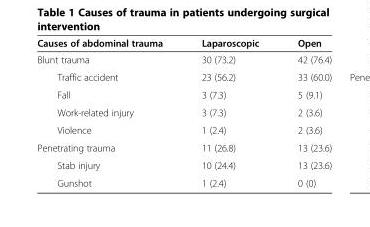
<table><thead><tr><td>Causes of abdominal trauma</td><td>Laparoscopic</td><td>Open</td></tr></thead><tbody><tr><td>Blunt trauma</td><td>30 (73.2)</td><td>42 (76.4)</td></tr><tr><td>Traffic accident</td><td>23 (56.2)</td><td>33 (60.0)</td></tr><tr><td>Fall</td><td>3 (7.3)</td><td>5 (9.1)</td></tr><tr><td>Work-related injury</td><td>3 (7.3)</td><td>2 (3.6)</td></tr><tr><td>Violence</td><td>1 (2.4)</td><td>2 (3.6)</td></tr><tr><td>Penetrating trauma</td><td>11 (26.8)</td><td>13 (23.6)</td></tr><tr><td>Stab injury</td><td>10 (24.4)</td><td>13 (23.6)</td></tr><tr><td>Gunshot</td><td>1 (2.4)</td><td>0 (0)</td></tr></tbody></table>